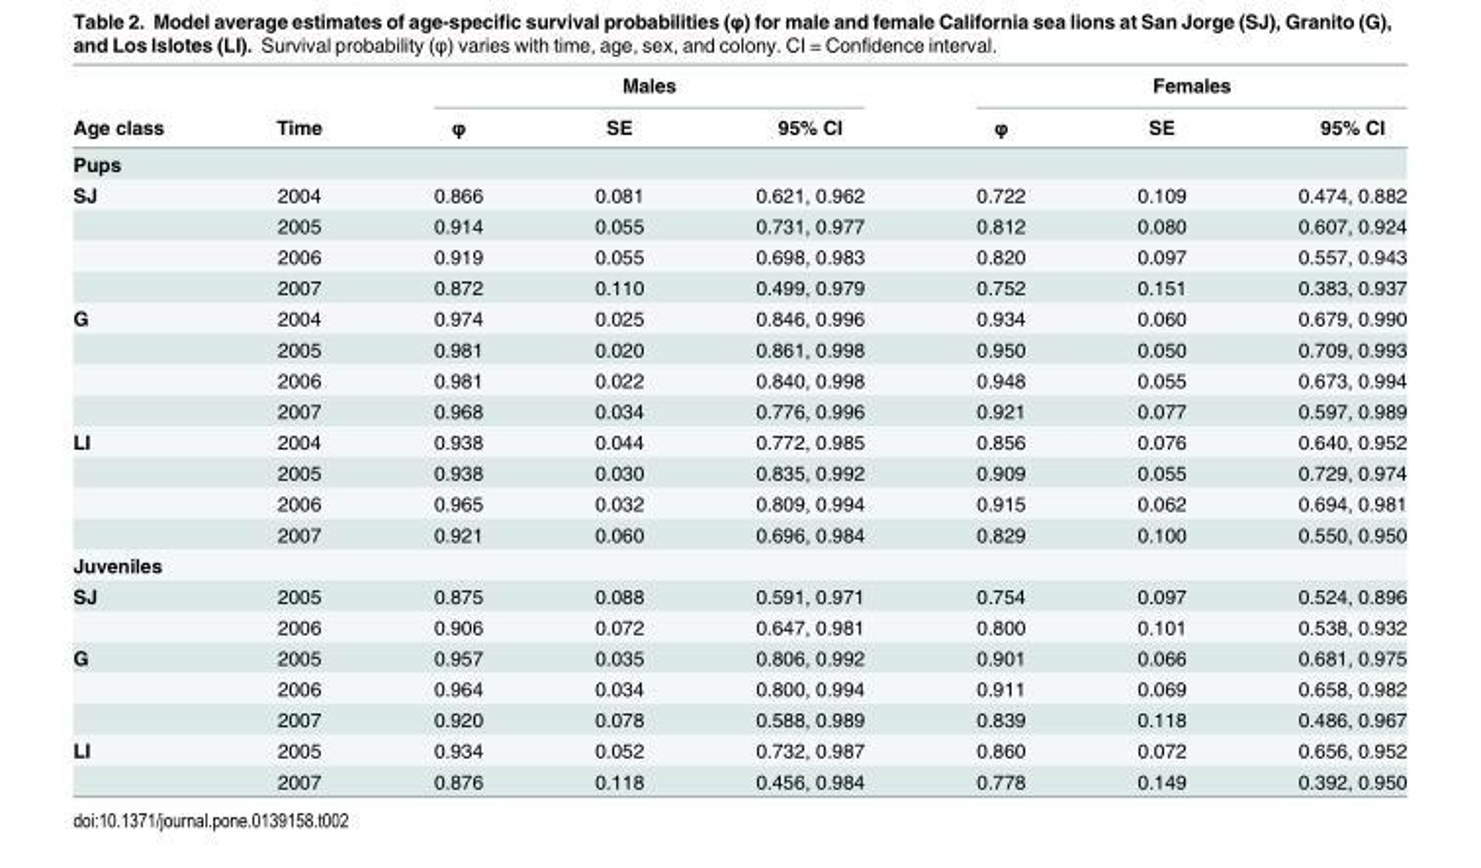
<table><thead><tr><td rowspan="2">Age class</td><td rowspan="2">Time</td><td colspan="3">Males</td><td colspan="3">Females</td></tr><tr><td>φ</td><td>SE</td><td>95% CI</td><td>φ</td><td>SE</td><td>95% CI</td></tr></thead><tbody><tr><td colspan="8">Pups</td></tr><tr><td rowspan="4">SJ</td><td>2004</td><td>0.866</td><td>0.081</td><td>0.621, 0.962</td><td>0.722</td><td>0.109</td><td>0.474, 0.882</td></tr><tr><td>2005</td><td>0.914</td><td>0.055</td><td>0.731, 0.977</td><td>0.812</td><td>0.080</td><td>0.607, 0.924</td></tr><tr><td>2006</td><td>0.919</td><td>0.055</td><td>0.698, 0.983</td><td>0.820</td><td>0.097</td><td>0.557, 0.943</td></tr><tr><td>2007</td><td>0.872</td><td>0.110</td><td>0.499, 0.979</td><td>0.752</td><td>0.151</td><td>0.383, 0.937</td></tr><tr><td rowspan="4">G</td><td>2004</td><td>0.974</td><td>0.025</td><td>0.846, 0.996</td><td>0.934</td><td>0.060</td><td>0.679, 0.990</td></tr><tr><td>2005</td><td>0.981</td><td>0.020</td><td>0.861, 0.998</td><td>0.950</td><td>0.050</td><td>0.709, 0.993</td></tr><tr><td>2006</td><td>0.981</td><td>0.022</td><td>0.840, 0.998</td><td>0.948</td><td>0.055</td><td>0.673, 0.994</td></tr><tr><td>2007</td><td>0.968</td><td>0.034</td><td>0.776, 0.996</td><td>0.921</td><td>0.077</td><td>0.597, 0.989</td></tr><tr><td rowspan="4">LI</td><td>2004</td><td>0.938</td><td>0.044</td><td>0.772, 0.985</td><td>0.856</td><td>0.076</td><td>0.640, 0.952</td></tr><tr><td>2005</td><td>0.938</td><td>0.030</td><td>0.835, 0.992</td><td>0.909</td><td>0.055</td><td>0.729, 0.974</td></tr><tr><td>2006</td><td>0.965</td><td>0.032</td><td>0.809, 0.994</td><td>0.915</td><td>0.062</td><td>0.694, 0.981</td></tr><tr><td>2007</td><td>0.921</td><td>0.060</td><td>0.696, 0.984</td><td>0.829</td><td>0.100</td><td>0.550, 0.950</td></tr><tr><td colspan="8">Juveniles</td></tr><tr><td rowspan="2">SJ</td><td>2005</td><td>0.875</td><td>0.088</td><td>0.591, 0.971</td><td>0.754</td><td>0.097</td><td>0.524, 0.896</td></tr><tr><td>2006</td><td>0.906</td><td>0.072</td><td>0.647, 0.981</td><td>0.800</td><td>0.101</td><td>0.538, 0.932</td></tr><tr><td rowspan="3">G</td><td>2005</td><td>0.957</td><td>0.035</td><td>0.806, 0.992</td><td>0.901</td><td>0.066</td><td>0.681, 0.975</td></tr><tr><td>2006</td><td>0.964</td><td>0.034</td><td>0.800, 0.994</td><td>0.911</td><td>0.069</td><td>0.658, 0.982</td></tr><tr><td>2007</td><td>0.920</td><td>0.078</td><td>0.588, 0.989</td><td>0.839</td><td>0.118</td><td>0.486, 0.967</td></tr><tr><td rowspan="2">LI</td><td>2005</td><td>0.934</td><td>0.052</td><td>0.732, 0.987</td><td>0.860</td><td>0.072</td><td>0.656, 0.952</td></tr><tr><td>2007</td><td>0.876</td><td>0.118</td><td>0.456, 0.984</td><td>0.778</td><td>0.149</td><td>0.392, 0.950</td></tr></tbody></table>